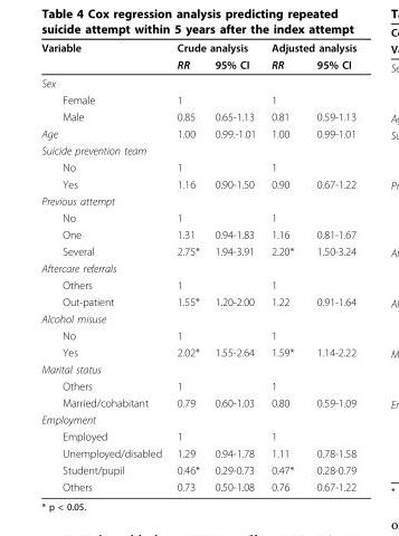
<table><thead><tr><td rowspan="2">Variable</td><td colspan="2">Crude analysis</td><td colspan="2">Adjusted analysis</td></tr><tr><td>RR</td><td>95% CI</td><td>RR</td><td>95% CI</td></tr></thead><tbody><tr><td colspan="5">Sex</td></tr><tr><td>Female</td><td>1</td><td></td><td>1</td><td></td></tr><tr><td>Male</td><td>0.85</td><td>0.65-1.13</td><td>0.81</td><td>0.59-1.13</td></tr><tr><td>Age</td><td>1.00</td><td>0.99.-1.01</td><td>1.00</td><td>0.99-1.01</td></tr><tr><td colspan="5">Suicide prevention team</td></tr><tr><td>No</td><td>1</td><td></td><td>1</td><td></td></tr><tr><td>Yes</td><td>1.16</td><td>0.90-1.50</td><td>0.90</td><td>0.67-1.22</td></tr><tr><td colspan="5">Previous attempt</td></tr><tr><td>No</td><td>1</td><td></td><td>1</td><td></td></tr><tr><td>One</td><td>1.31</td><td>0.94-1.83</td><td>1.16</td><td>0.81-1.67</td></tr><tr><td>Several</td><td>2.75*</td><td>1.94-3.91</td><td>2.20*</td><td>1.50-3.24</td></tr><tr><td colspan="5">Aftercare referrals</td></tr><tr><td>Others</td><td>1</td><td></td><td>1</td><td></td></tr><tr><td>Out-patient</td><td>1.55*</td><td>1.20-2.00</td><td>1.22</td><td>0.91-1.64</td></tr><tr><td colspan="5">Alcohol misuse</td></tr><tr><td>No</td><td>1</td><td></td><td>1</td><td></td></tr><tr><td>Yes</td><td>2.02*</td><td>1.55-2.64</td><td>1.59*</td><td>1.14-2.22</td></tr><tr><td colspan="5">Marital status</td></tr><tr><td>Others</td><td>1</td><td></td><td>1</td><td></td></tr><tr><td>Married/cohabitant</td><td>0.79</td><td>0.60-1.03</td><td>0.80</td><td>0.59-1.09</td></tr><tr><td colspan="5">Employment</td></tr><tr><td>Employed</td><td>1</td><td></td><td>1</td><td></td></tr><tr><td>Unemployed/disabled</td><td>1.29</td><td>0.94-1.78</td><td>1.11</td><td>0.78-1.58</td></tr><tr><td>Student/pupil</td><td>0.46*</td><td>0.29-0.73</td><td>0.47*</td><td>0.28-0.79</td></tr><tr><td>Others</td><td>0.73</td><td>0.50-1.08</td><td>0.76</td><td>0.67-1.22</td></tr></tbody></table>